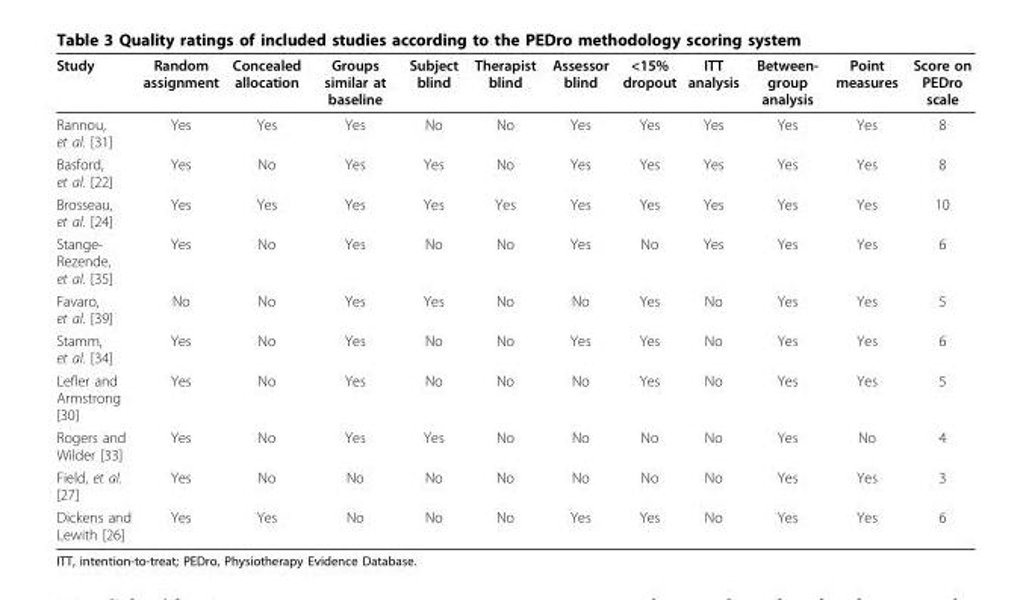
<table><thead><tr><td>Study</td><td>Random assignment</td><td>Concealed allocation</td><td>Groups similar at baseline</td><td>Subject blind</td><td>Therapist blind</td><td>Assessor blind</td><td>&lt;15% dropout</td><td>ITT analysis</td><td>Between- group analysis</td><td>Point measures</td><td>Score on PEDro scale</td></tr></thead><tbody><tr><td>Rannou, et al. [31]</td><td>Yes</td><td>Yes</td><td>Yes</td><td>No</td><td>No</td><td>Yes</td><td>Yes</td><td>Yes</td><td>Yes</td><td>Yes</td><td>8</td></tr><tr><td>Basford, et al. [22]</td><td>Yes</td><td>No</td><td>Yes</td><td>Yes</td><td>No</td><td>Yes</td><td>Yes</td><td>Yes</td><td>Yes</td><td>Yes</td><td>8</td></tr><tr><td>Brosseau, et al. [24]</td><td>Yes</td><td>Yes</td><td>Yes</td><td>Yes</td><td>Yes</td><td>Yes</td><td>Yes</td><td>Yes</td><td>Yes</td><td>Yes</td><td>10</td></tr><tr><td>Stange- Rezende, et al. [35]</td><td>Yes</td><td>No</td><td>Yes</td><td>No</td><td>No</td><td>Yes</td><td>No</td><td>Yes</td><td>Yes</td><td>Yes</td><td>6</td></tr><tr><td>Favaro, et al. [39]</td><td>No</td><td>No</td><td>Yes</td><td>Yes</td><td>No</td><td>No</td><td>Yes</td><td>No</td><td>Yes</td><td>Yes</td><td>5</td></tr><tr><td>Stamm, et al. [34]</td><td>Yes</td><td>No</td><td>Yes</td><td>No</td><td>No</td><td>Yes</td><td>Yes</td><td>No</td><td>Yes</td><td>Yes</td><td>6</td></tr><tr><td>Lefler and Armstrong [30]</td><td>Yes</td><td>No</td><td>Yes</td><td>No</td><td>No</td><td>No</td><td>Yes</td><td>No</td><td>Yes</td><td>Yes</td><td>5</td></tr><tr><td>Rogers and Wilder [33]</td><td>Yes</td><td>No</td><td>Yes</td><td>Yes</td><td>No</td><td>No</td><td>No</td><td>No</td><td>Yes</td><td>No</td><td>4</td></tr><tr><td>Field, et al. [27]</td><td>Yes</td><td>No</td><td>No</td><td>No</td><td>No</td><td>No</td><td>No</td><td>No</td><td>Yes</td><td>Yes</td><td>3</td></tr><tr><td>Dickens and Lewith [26]</td><td>Yes</td><td>Yes</td><td>No</td><td>No</td><td>No</td><td>Yes</td><td>Yes</td><td>No</td><td>Yes</td><td>Yes</td><td>6</td></tr></tbody></table>